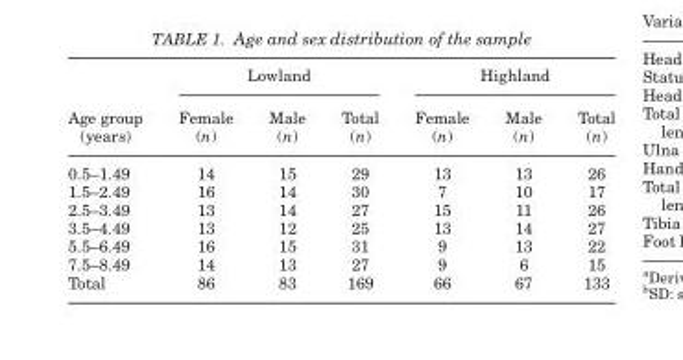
<table><thead><tr><td rowspan="2">Age group (years)</td><td colspan="3">Lowland</td><td colspan="3">Highland</td></tr><tr><td>Female (n)</td><td>Male (n)</td><td>Total (n)</td><td>Female (n)</td><td>Male (n)</td><td>Total (n)</td></tr></thead><tbody><tr><td>0.5–1.49</td><td>14</td><td>15</td><td>29</td><td>13</td><td>13</td><td>26</td></tr><tr><td>1.5–2.49</td><td>16</td><td>14</td><td>30</td><td>7</td><td>10</td><td>17</td></tr><tr><td>2.5–3.49</td><td>13</td><td>14</td><td>27</td><td>15</td><td>11</td><td>26</td></tr><tr><td>3.5–4.49</td><td>13</td><td>12</td><td>25</td><td>13</td><td>14</td><td>27</td></tr><tr><td>5.5–6.49</td><td>16</td><td>15</td><td>31</td><td>9</td><td>13</td><td>22</td></tr><tr><td>7.5–8.49</td><td>14</td><td>13</td><td>27</td><td>9</td><td>6</td><td>15</td></tr><tr><td>Total</td><td>86</td><td>83</td><td>169</td><td>66</td><td>67</td><td>133</td></tr></tbody></table>